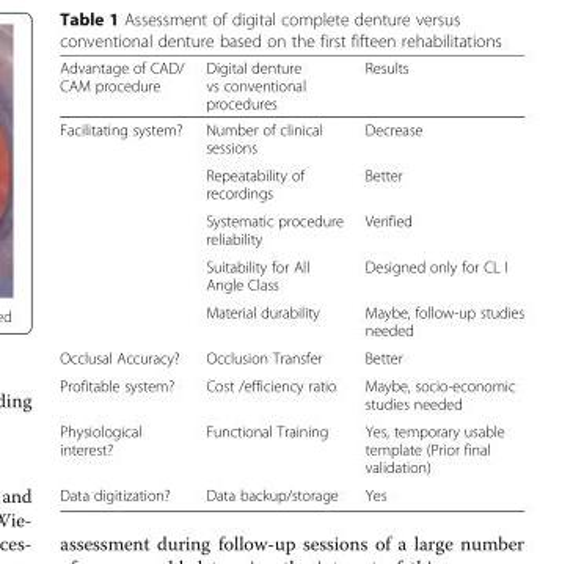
<table><thead><tr><td>Advantage of CAD/ CAM procedure</td><td>Digital denture vs conventional procedures</td><td>Results</td></tr></thead><tbody><tr><td rowspan="5">Facilitating system?</td><td>Number of clinical sessions</td><td>Decrease</td></tr><tr><td>Repeatability of recordings</td><td>Better</td></tr><tr><td>Systematic procedure reliability</td><td>Verified</td></tr><tr><td>Suitability for All Angle Class</td><td>Designed only for CL I</td></tr><tr><td>Material durability</td><td>Maybe, follow-up studies needed</td></tr><tr><td>Occlusal Accuracy?</td><td>Occlusion Transfer</td><td>Better</td></tr><tr><td>Profitable system?</td><td>Cost /efficiency ratio</td><td>Maybe, socio-economic studies needed</td></tr><tr><td>Physiological interest?</td><td>Functional Training</td><td>Yes, temporary usable template (Prior final validation)</td></tr><tr><td>Data digitization?</td><td>Data backup/storage</td><td>Yes</td></tr></tbody></table>